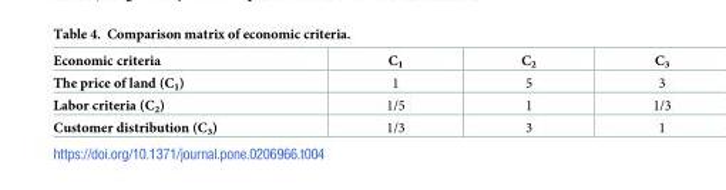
<table><thead><tr><td>Economic criteria</td><td>C<sub>1</sub></td><td>C<sub>2</sub></td><td>C<sub>3</sub></td></tr></thead><tbody><tr><td>The price of land (C<sub>1</sub>)</td><td>1</td><td>5</td><td>3</td></tr><tr><td>Labor criteria (C<sub>2</sub>)</td><td>1/5</td><td>1</td><td>1/3</td></tr><tr><td>Customer distribution (C<sub>3</sub>)</td><td>1/3</td><td>3</td><td>1</td></tr></tbody></table>